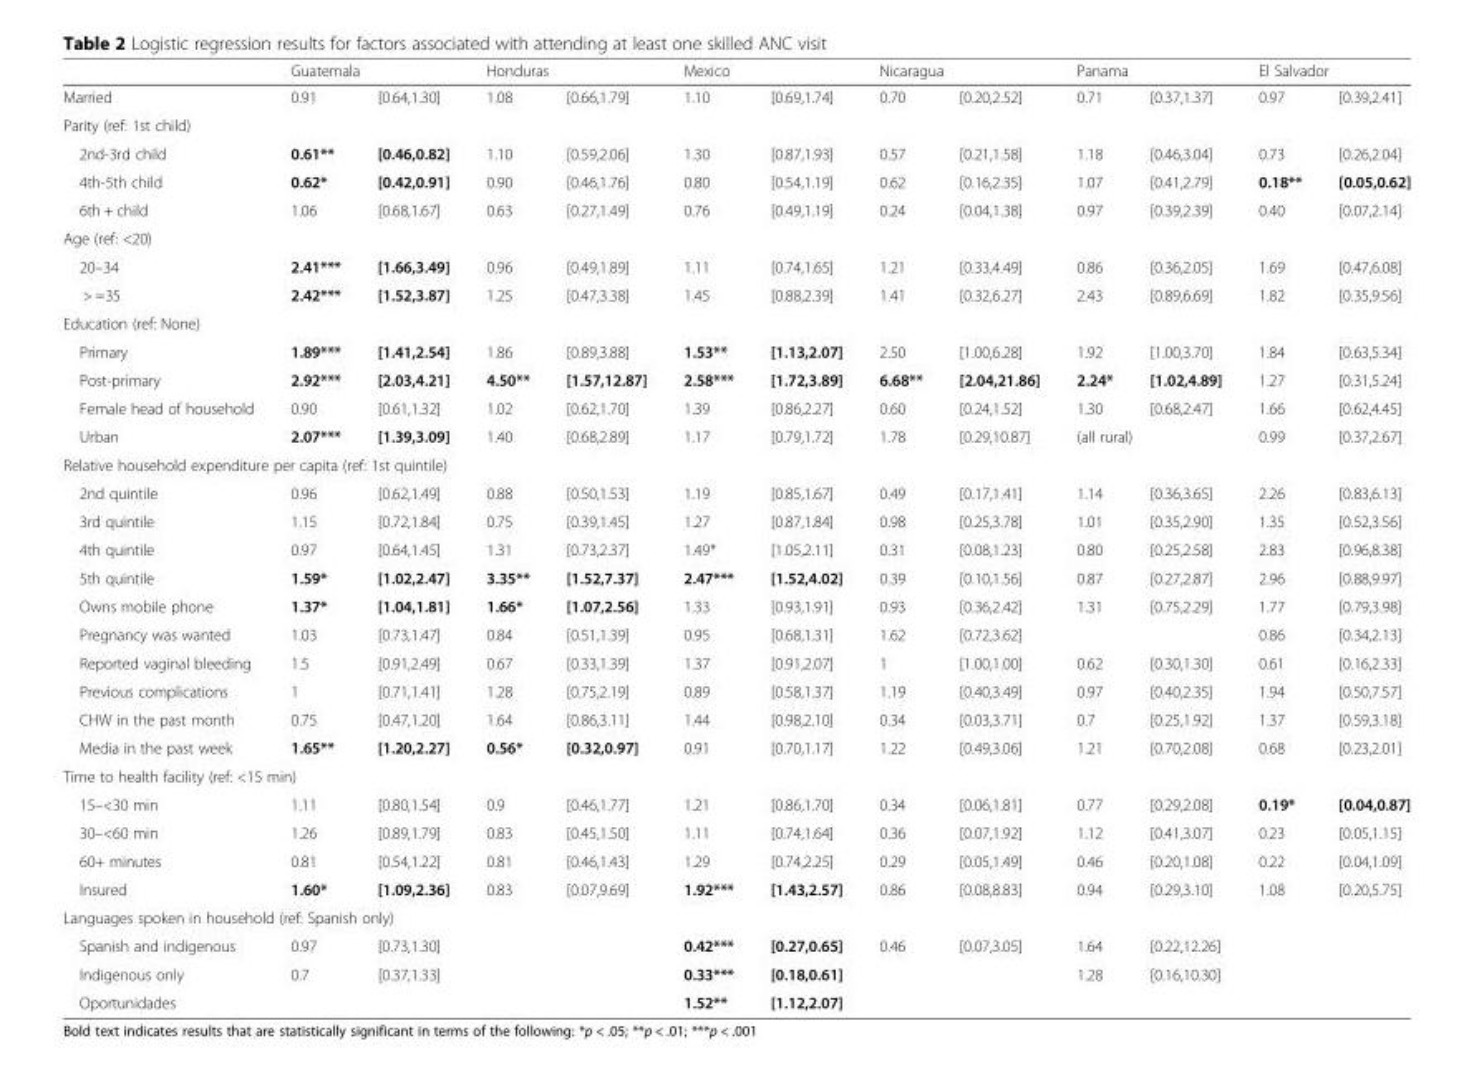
<table><thead><tr><td rowspan="2">Married</td><td colspan="2">Guatemala</td><td colspan="2">Honduras</td><td colspan="2">Mexico</td><td colspan="2">Nicaragua</td><td colspan="2">Panama</td><td colspan="2">El Salvador</td></tr><tr><td>0.91</td><td>[0.64,1.30]</td><td>1.08</td><td>[0.66,1.79]</td><td>1.10</td><td>[0.69,1.74]</td><td>0.70</td><td>[0.20,2.52]</td><td>0.71</td><td>[0.37,1.37]</td><td>0.97</td><td>[0.39,2.41]</td></tr></thead><tbody><tr><td colspan="13">Parity (ref: 1st child)</td></tr><tr><td>2nd-3rd child</td><td>0.61**</td><td>[0.46,0.82]</td><td>1.10</td><td>[0.59,2.06]</td><td>1.30</td><td>[0.87,1.93]</td><td>0.57</td><td>[0.21,1.58]</td><td>1.18</td><td>[0.46,3.04]</td><td>0.73</td><td>[0.26,2.04]</td></tr><tr><td>4th-5th child</td><td>0.62*</td><td>[0.42,0.91]</td><td>0.90</td><td>[0.46,1.76]</td><td>0.80</td><td>[0.54,1.19]</td><td>0.62</td><td>[0.16,2.35]</td><td>1.07</td><td>[0.41,2.79]</td><td>0.18**</td><td>[0.05,0.62]</td></tr><tr><td>6th + child</td><td>1.06</td><td>[0.68,1.67]</td><td>0.63</td><td>[0.27,1.49]</td><td>0.76</td><td>[0.49,1.19]</td><td>0.24</td><td>[0.04,1.38]</td><td>0.97</td><td>[0.39,2.39]</td><td>0.40</td><td>[0.07,2.14]</td></tr><tr><td colspan="13">Age (ref: &lt;20)</td></tr><tr><td>20–34</td><td>2.41***</td><td>[1.66,3.49]</td><td>0.96</td><td>[0.49,1.89]</td><td>1.11</td><td>[0.74,1.65]</td><td>1.21</td><td>[0.33,4.49]</td><td>0.86</td><td>[0.36,2.05]</td><td>1.69</td><td>[0.47,6.08]</td></tr><tr><td>&gt; =35</td><td>2.42***</td><td>[1.52,3.87]</td><td>1.25</td><td>[0.47,3.38]</td><td>1.45</td><td>[0.88,2.39]</td><td>1.41</td><td>[0.32,6.27]</td><td>2.43</td><td>[0.89,6.69]</td><td>1.82</td><td>[0.35,9.56]</td></tr><tr><td colspan="13">Education (ref: None)</td></tr><tr><td>Primary</td><td>1.89***</td><td>[1.41,2.54]</td><td>1.86</td><td>[0.89,3.88]</td><td>1.53**</td><td>[1.13,2.07]</td><td>2.50</td><td>[1.00,6.28]</td><td>1.92</td><td>[1.00,3.70]</td><td>1.84</td><td>[0.63,5.34]</td></tr><tr><td>Post-primary</td><td>2.92***</td><td>[2.03,4.21]</td><td>4.50**</td><td>[1.57,12.87]</td><td>2.58***</td><td>[1.72,3.89]</td><td>6.68**</td><td>[2.04,21.86]</td><td>2.24*</td><td>[1.02,4.89]</td><td>1.27</td><td>[0.31,5.24]</td></tr><tr><td>Female head of household</td><td>0.90</td><td>[0.61,1.32]</td><td>1.02</td><td>[0.62,1.70]</td><td>1.39</td><td>[0.86,2.27]</td><td>0.60</td><td>[0.24,1.52]</td><td>1.30</td><td>[0.68,2.47]</td><td>1.66</td><td>[0.62,4.45]</td></tr><tr><td>Urban</td><td>2.07***</td><td>[1.39,3.09]</td><td>1.40</td><td>[0.68,2.89]</td><td>1.17</td><td>[0.79,1.72]</td><td>1.78</td><td>[0.29,10.87]</td><td colspan="2">(all rural)</td><td>0.99</td><td>[0.37,2.67]</td></tr><tr><td colspan="13">Relative household expenditure per capita (ref: 1st quintile)</td></tr><tr><td>2nd quintile</td><td>0.96</td><td>[0.62,1.49]</td><td>0.88</td><td>[0.50,1.53]</td><td>1.19</td><td>[0.85,1.67]</td><td>0.49</td><td>[0.17,1.41]</td><td>1.14</td><td>[0.36,3.65]</td><td>2.26</td><td>[0.83,6.13]</td></tr><tr><td>3rd quintile</td><td>1.15</td><td>[0.72,1.84]</td><td>0.75</td><td>[0.39,1.45]</td><td>1.27</td><td>[0.87,1.84]</td><td>0.98</td><td>[0.25,3.78]</td><td>1.01</td><td>[0.35,2.90]</td><td>1.35</td><td>[0.52,3.56]</td></tr><tr><td>4th quintile</td><td>0.97</td><td>[0.64,1.45]</td><td>1.31</td><td>[0.73,2.37]</td><td>1.49*</td><td>[1.05,2.11]</td><td>0.31</td><td>[0.08,1.23]</td><td>0.80</td><td>[0.25,2.58]</td><td>2.83</td><td>[0.96,8.38]</td></tr><tr><td>5th quintile</td><td>1.59*</td><td>[1.02,2.47]</td><td>3.35**</td><td>[1.52,7.37]</td><td>2.47***</td><td>[1.52,4.02]</td><td>0.39</td><td>[0.10,1.56]</td><td>0.87</td><td>[0.27,2.87]</td><td>2.96</td><td>[0.88,9.97]</td></tr><tr><td>Owns mobile phone</td><td>1.37*</td><td>[1.04,1.81]</td><td>1.66*</td><td>[1.07,2.56]</td><td>1.33</td><td>[0.93,1.91]</td><td>0.93</td><td>[0.36,2.42]</td><td>1.31</td><td>[0.75,2.29]</td><td>1.77</td><td>[0.79,3.98]</td></tr><tr><td>Pregnancy was wanted</td><td>1.03</td><td>[0.73,1.47]</td><td>0.84</td><td>[0.51,1.39]</td><td>0.95</td><td>[0.68,1.31]</td><td>1.62</td><td>[0.72,3.62]</td><td></td><td></td><td>0.86</td><td>[0.34,2.13]</td></tr><tr><td>Reported vaginal bleeding</td><td>1.5</td><td>[0.91,2.49]</td><td>0.67</td><td>[0.33,1.39]</td><td>1.37</td><td>[0.91,2.07]</td><td>1</td><td>[1.00,1.00]</td><td>0.62</td><td>[0.30,1.30]</td><td>0.61</td><td>[0.16,2.33]</td></tr><tr><td>Previous complications</td><td>1</td><td>[0.71,1.41]</td><td>1.28</td><td>[0.75,2.19]</td><td>0.89</td><td>[0.58,1.37]</td><td>1.19</td><td>[0.40,3.49]</td><td>0.97</td><td>[0.40,2.35]</td><td>1.94</td><td>[0.50,7.57]</td></tr><tr><td>CHW in the past month</td><td>0.75</td><td>[0.47,1.20]</td><td>1.64</td><td>[0.86,3.11]</td><td>1.44</td><td>[0.98,2.10]</td><td>0.34</td><td>[0.03,3.71]</td><td>0.7</td><td>[0.25,1.92]</td><td>1.37</td><td>[0.59,3.18]</td></tr><tr><td>Media in the past week</td><td>1.65**</td><td>[1.20,2.27]</td><td>0.56*</td><td>[0.32,0.97]</td><td>0.91</td><td>[0.70,1.17]</td><td>1.22</td><td>[0.49,3.06]</td><td>1.21</td><td>[0.70,2.08]</td><td>0.68</td><td>[0.23,2.01]</td></tr><tr><td colspan="13">Time to health facility (ref: &lt;15 min)</td></tr><tr><td>15–&lt;30 min</td><td>1.11</td><td>[0.80,1.54]</td><td>0.9</td><td>[0.46,1.77]</td><td>1.21</td><td>[0.86,1.70]</td><td>0.34</td><td>[0.06,1.81]</td><td>0.77</td><td>[0.29,2.08]</td><td>0.19*</td><td>[0.04,0.87]</td></tr><tr><td>30–&lt;60 min</td><td>1.26</td><td>[0.89,1.79]</td><td>0.83</td><td>[0.45,1.50]</td><td>1.11</td><td>[0.74,1.64]</td><td>0.36</td><td>[0.07,1.92]</td><td>1.12</td><td>[0.41,3.07]</td><td>0.23</td><td>[0.05,1.15]</td></tr><tr><td>60+ minutes</td><td>0.81</td><td>[0.54,1.22]</td><td>0.81</td><td>[0.46,1.43]</td><td>1.29</td><td>[0.74,2.25]</td><td>0.29</td><td>[0.05,1.49]</td><td>0.46</td><td>[0.20,1.08]</td><td>0.22</td><td>[0.04,1.09]</td></tr><tr><td>Insured</td><td>1.60*</td><td>[1.09,2.36]</td><td>0.83</td><td>[0.07,9.69]</td><td>1.92***</td><td>[1.43,2.57]</td><td>0.86</td><td>[0.08,8.83]</td><td>0.94</td><td>[0.29,3.10]</td><td>1.08</td><td>[0.20,5.75]</td></tr><tr><td colspan="13">Languages spoken in household (ref: Spanish only)</td></tr><tr><td>Spanish and indigenous</td><td>0.97</td><td>[0.73,1.30]</td><td></td><td></td><td>0.42***</td><td>[0.27,0.65]</td><td>0.46</td><td>[0.07,3.05]</td><td>1.64</td><td>[0.22,12.26]</td><td></td><td></td></tr><tr><td>Indigenous only</td><td>0.7</td><td>[0.37,1.33]</td><td></td><td></td><td>0.33***</td><td>[0.18,0.61]</td><td></td><td></td><td>1.28</td><td>[0.16,10.30]</td><td></td><td></td></tr><tr><td>Oportunidades</td><td></td><td></td><td></td><td></td><td>1.52**</td><td>[1.12,2.07]</td><td></td><td></td><td></td><td></td><td></td><td></td></tr></tbody></table>